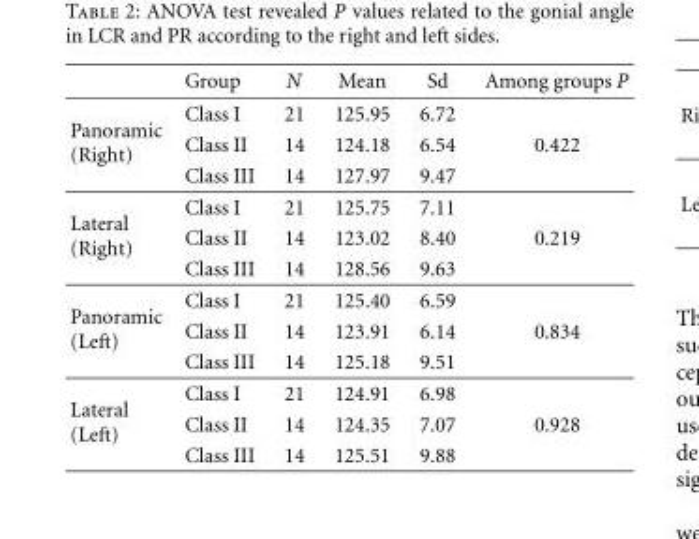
<table><thead><tr><td></td><td>Group</td><td>N</td><td>Mean</td><td>Sd</td><td>Among groups P</td></tr></thead><tbody><tr><td rowspan="3">Panoramic (Right)</td><td>Class I</td><td>21</td><td>125.95</td><td>6.72</td><td></td></tr><tr><td>Class II</td><td>14</td><td>124.18</td><td>6.54</td><td>0.422</td></tr><tr><td>Class III</td><td>14</td><td>127.97</td><td>9.47</td><td></td></tr><tr><td rowspan="3">Lateral (Right)</td><td>Class I</td><td>21</td><td>125.75</td><td>7.11</td><td></td></tr><tr><td>Class II</td><td>14</td><td>123.02</td><td>8.40</td><td>0.219</td></tr><tr><td>Class III</td><td>14</td><td>128.56</td><td>9.63</td><td></td></tr><tr><td rowspan="3">Panoramic (Left)</td><td>Class I</td><td>21</td><td>125.40</td><td>6.59</td><td></td></tr><tr><td>Class II</td><td>14</td><td>123.91</td><td>6.14</td><td>0.834</td></tr><tr><td>Class III</td><td>14</td><td>125.18</td><td>9.51</td><td></td></tr><tr><td rowspan="3">Lateral (Left)</td><td>Class I</td><td>21</td><td>124.91</td><td>6.98</td><td></td></tr><tr><td>Class II</td><td>14</td><td>124.35</td><td>7.07</td><td>0.928</td></tr><tr><td>Class III</td><td>14</td><td>125.51</td><td>9.88</td><td></td></tr></tbody></table>